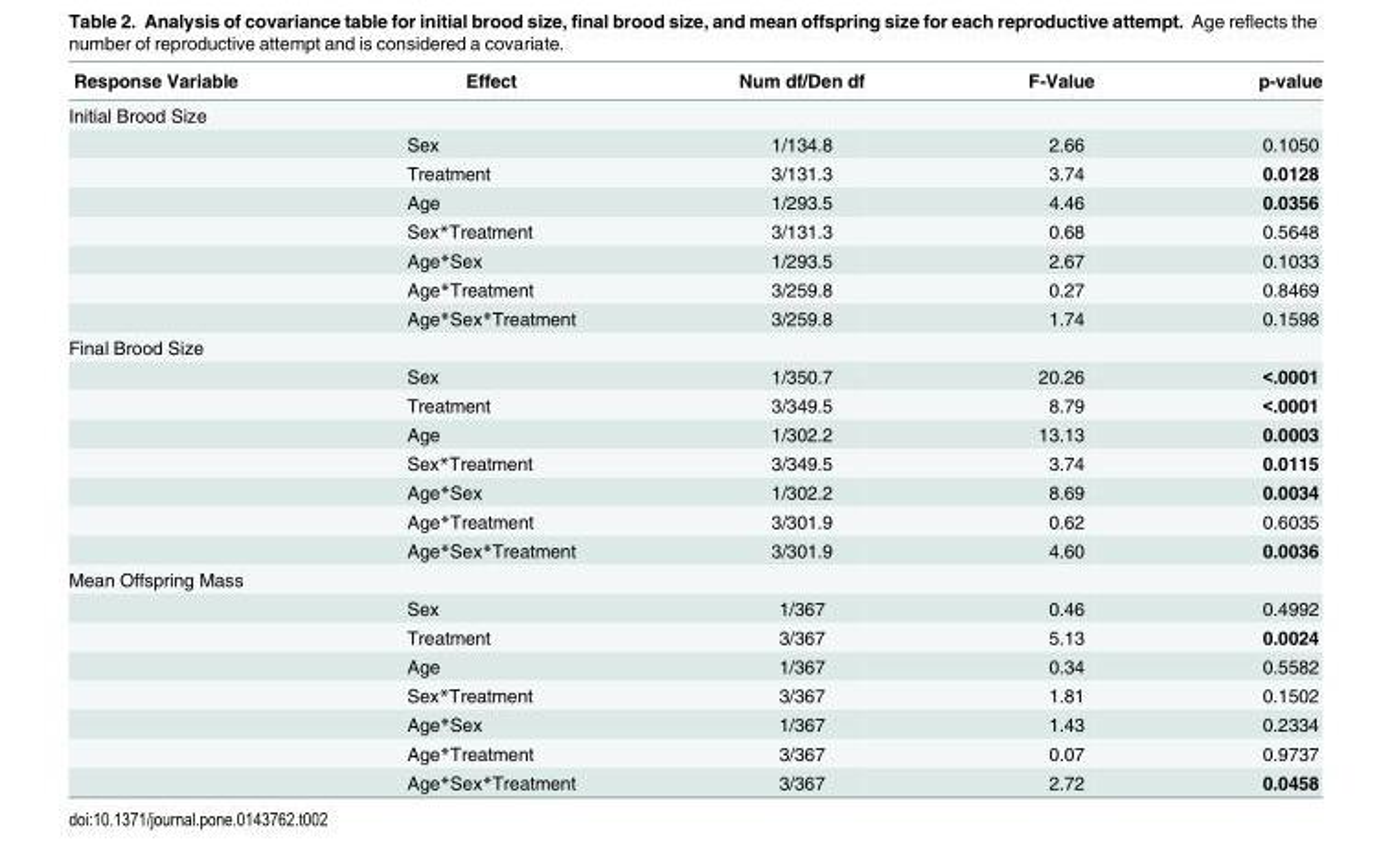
<table><thead><tr><td>Response Variable</td><td>Effect</td><td>Num df/Den df</td><td>F-Value</td><td>p-value</td></tr></thead><tbody><tr><td colspan="5">Initial Brood Size</td></tr><tr><td></td><td>Sex</td><td>1/134.8</td><td>2.66</td><td>0.1050</td></tr><tr><td></td><td>Treatment</td><td>3/131.3</td><td>3.74</td><td>0.0128</td></tr><tr><td></td><td>Age</td><td>1/293.5</td><td>4.46</td><td>0.0356</td></tr><tr><td></td><td>Sex*Treatment</td><td>3/131.3</td><td>0.68</td><td>0.5648</td></tr><tr><td></td><td>Age*Sex</td><td>1/293.5</td><td>2.67</td><td>0.1033</td></tr><tr><td></td><td>Age*Treatment</td><td>3/259.8</td><td>0.27</td><td>0.8469</td></tr><tr><td></td><td>Age*Sex*Treatment</td><td>3/259.8</td><td>1.74</td><td>0.1598</td></tr><tr><td colspan="5">Final Brood Size</td></tr><tr><td></td><td>Sex</td><td>1/350.7</td><td>20.26</td><td>&lt;.0001</td></tr><tr><td></td><td>Treatment</td><td>3/349.5</td><td>8.79</td><td>&lt;.0001</td></tr><tr><td></td><td>Age</td><td>1/302.2</td><td>13.13</td><td>0.0003</td></tr><tr><td></td><td>Sex*Treatment</td><td>3/349.5</td><td>3.74</td><td>0.0115</td></tr><tr><td></td><td>Age*Sex</td><td>1/302.2</td><td>8.69</td><td>0.0034</td></tr><tr><td></td><td>Age*Treatment</td><td>3/301.9</td><td>0.62</td><td>0.6035</td></tr><tr><td></td><td>Age*Sex*Treatment</td><td>3/301.9</td><td>4.60</td><td>0.0036</td></tr><tr><td colspan="5">Mean Offspring Mass</td></tr><tr><td></td><td>Sex</td><td>1/367</td><td>0.46</td><td>0.4992</td></tr><tr><td></td><td>Treatment</td><td>3/367</td><td>5.13</td><td>0.0024</td></tr><tr><td></td><td>Age</td><td>1/367</td><td>0.34</td><td>0.5582</td></tr><tr><td></td><td>Sex*Treatment</td><td>3/367</td><td>1.81</td><td>0.1502</td></tr><tr><td></td><td>Age*Sex</td><td>1/367</td><td>1.43</td><td>0.2334</td></tr><tr><td></td><td>Age*Treatment</td><td>3/367</td><td>0.07</td><td>0.9737</td></tr><tr><td></td><td>Age*Sex*Treatment</td><td>3/367</td><td>2.72</td><td>0.0458</td></tr></tbody></table>